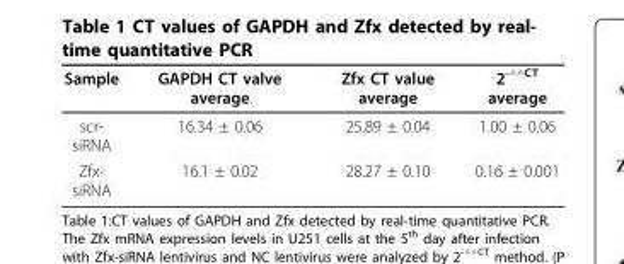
<table><thead><tr><td>Sample</td><td>GAPDH CT valve average</td><td>Zfx CT value average</td><td>2<sup>-△△CT</sup> average</td></tr></thead><tbody><tr><td>scr- siRNA</td><td>16.34 ± 0.06</td><td>25.89 ± 0.04</td><td>1.00 ± 0.06</td></tr><tr><td>Zfx- siRNA</td><td>16.1 ± 0.02</td><td>28.27 ± 0.10</td><td>0.16 ± 0.001</td></tr></tbody></table>